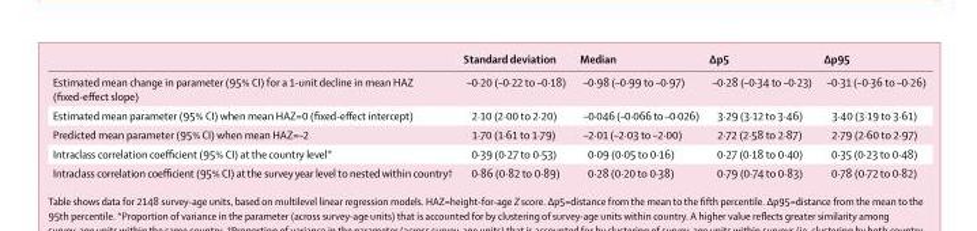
<table><thead><tr><td></td><td>Standard deviation</td><td>Median</td><td>Δp5</td><td>Δp95</td></tr></thead><tbody><tr><td>Estimated mean change in parameter (95% CI) for a 1-unit decline in mean HAZ (fixed-effect slope)</td><td>–0·20 (–0·22 to –0·18)</td><td>–0·98 (–0·99 to –0·97)</td><td>–0·28 (–0·34 to –0·23)</td><td>–0·31 (–0·36 to –0·26)</td></tr><tr><td>Estimated mean parameter (95% CI) when mean HAZ=0 (fixed-effect intercept)</td><td>2·10 (2·00 to 2·20)</td><td>–0·046 (–0·066 to –0·026)</td><td>3·29 (3·12 to 3·46)</td><td>3·40 (3·19 to 3·61)</td></tr><tr><td>Predicted mean parameter (95% CI) when mean HAZ=–2</td><td>1·70 (1·61 to 1·79)</td><td>–2·01 (–2·03 to –2·00)</td><td>2·72 (2·58 to 2·87)</td><td>2·79 (2·60 to 2·97)</td></tr><tr><td>Intraclass correlation coefficient (95% CI) at the country level*</td><td>0·39 (0·27 to 0·53)</td><td>0·09 (0·05 to 0·16)</td><td>0·27 (0·18 to 0·40)</td><td>0·35 (0·23 to 0·48)</td></tr><tr><td>Intraclass correlation coefficient (95% CI) at the survey year level to nested within country†</td><td>0·86 (0·82 to 0·89)</td><td>0·28 (0·20 to 0·38)</td><td>0·79 (0·74 to 0·83)</td><td>0·78 (0·72 to 0·82)</td></tr></tbody></table>